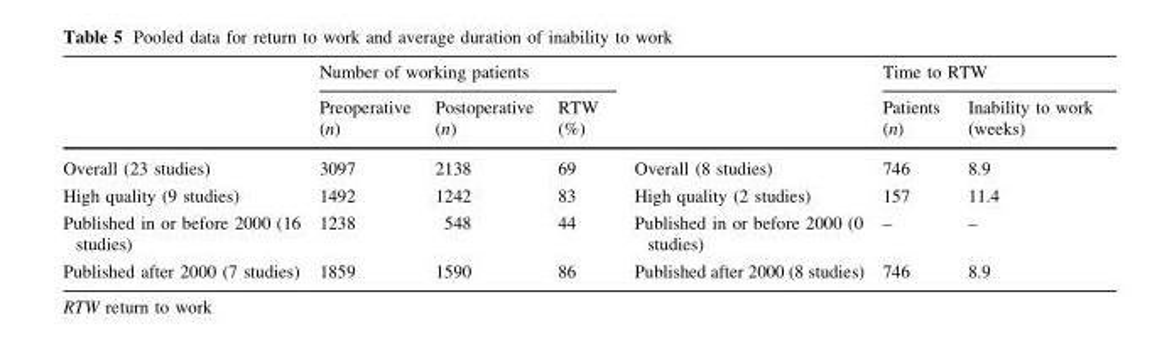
<table><thead><tr><td rowspan="2"></td><td colspan="3">Number of working patients</td><td rowspan="2"></td><td colspan="2">Time to RTW</td></tr><tr><td>Preoperative (n)</td><td>Postoperative (n)</td><td>RTW (%)</td><td>Patients (n)</td><td>Inability to work (weeks)</td></tr></thead><tbody><tr><td>Overall (23 studies)</td><td>3097</td><td>2138</td><td>69</td><td>Overall (8 studies)</td><td>746</td><td>8.9</td></tr><tr><td>High quality (9 studies)</td><td>1492</td><td>1242</td><td>83</td><td>High quality (2 studies)</td><td>157</td><td>11.4</td></tr><tr><td>Published in or before 2000 (16 studies)</td><td>1238</td><td>548</td><td>44</td><td>Published in or before 2000 (0 studies)</td><td>–</td><td>–</td></tr><tr><td>Published after 2000 (7 studies)</td><td>1859</td><td>1590</td><td>86</td><td>Published after 2000 (8 studies)</td><td>746</td><td>8.9</td></tr></tbody></table>